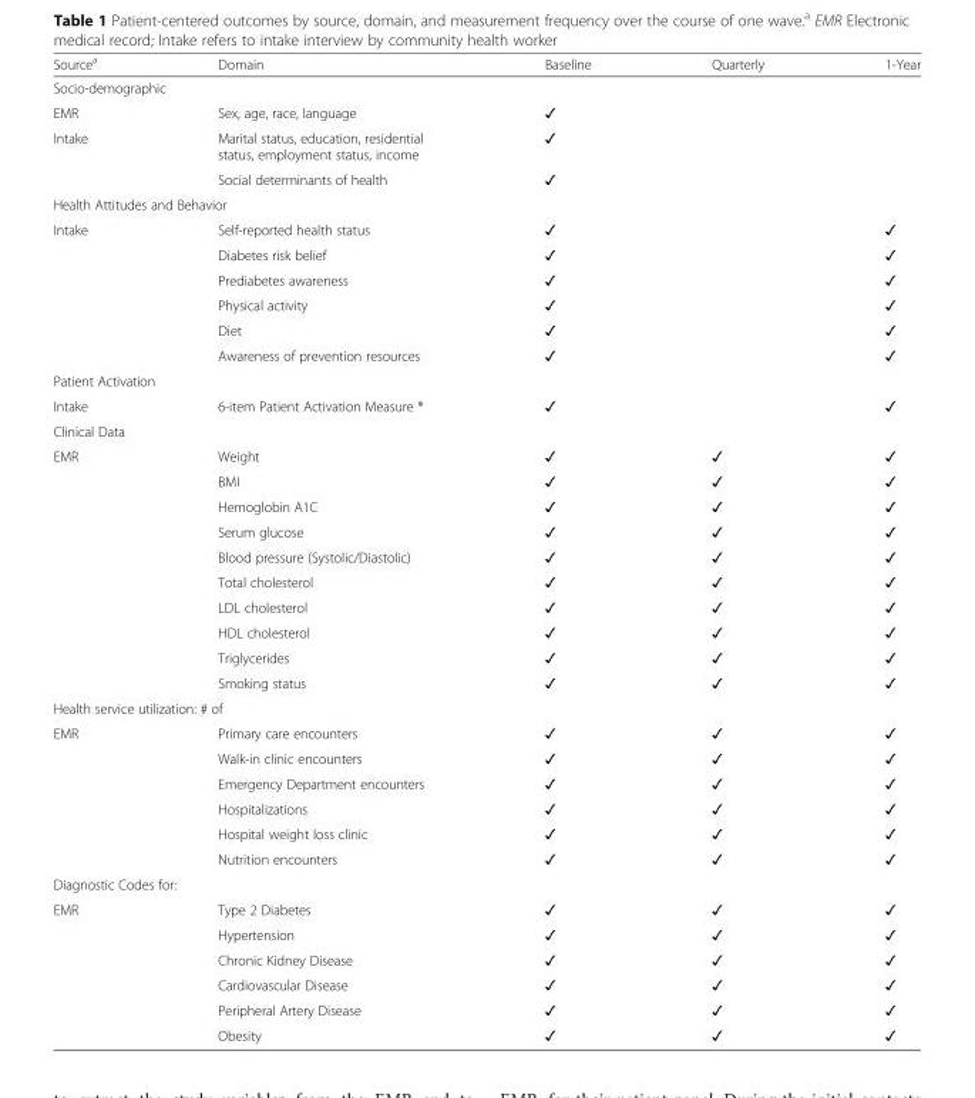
<table><thead><tr><td>Source<sup>a</sup></td><td>Domain</td><td>Baseline</td><td>Quarterly</td><td>1-Year</td></tr></thead><tbody><tr><td colspan="5">Socio-demographic</td></tr><tr><td>EMR</td><td>Sex, age, race, language</td><td>✓</td><td></td><td></td></tr><tr><td rowspan="2">Intake</td><td>Marital status, education, residential status, employment status, income</td><td>✓</td><td></td><td></td></tr><tr><td>Social determinants of health</td><td>✓</td><td></td><td></td></tr><tr><td colspan="5">Health Attitudes and Behavior</td></tr><tr><td rowspan="6">Intake</td><td>Self-reported health status</td><td>✓</td><td></td><td>✓</td></tr><tr><td>Diabetes risk belief</td><td>✓</td><td></td><td>✓</td></tr><tr><td>Prediabetes awareness</td><td>✓</td><td></td><td>✓</td></tr><tr><td>Physical activity</td><td>✓</td><td></td><td>✓</td></tr><tr><td>Diet</td><td>✓</td><td></td><td>✓</td></tr><tr><td>Awareness of prevention resources</td><td>✓</td><td></td><td>✓</td></tr><tr><td colspan="5">Patient Activation</td></tr><tr><td>Intake</td><td>6-item Patient Activation Measure ®</td><td>✓</td><td></td><td>✓</td></tr><tr><td colspan="5">Clinical Data</td></tr><tr><td rowspan="10">EMR</td><td>Weight</td><td>✓</td><td>✓</td><td>✓</td></tr><tr><td>BMI</td><td>✓</td><td>✓</td><td>✓</td></tr><tr><td>Hemoglobin A1C</td><td>✓</td><td>✓</td><td>✓</td></tr><tr><td>Serum glucose</td><td>✓</td><td>✓</td><td>✓</td></tr><tr><td>Blood pressure (Systolic/Diastolic)</td><td>✓</td><td>✓</td><td>✓</td></tr><tr><td>Total cholesterol</td><td>✓</td><td>✓</td><td>✓</td></tr><tr><td>LDL cholesterol</td><td>✓</td><td>✓</td><td>✓</td></tr><tr><td>HDL cholesterol</td><td>✓</td><td>✓</td><td>✓</td></tr><tr><td>Triglycerides</td><td>✓</td><td>✓</td><td>✓</td></tr><tr><td>Smoking status</td><td>✓</td><td>✓</td><td>✓</td></tr><tr><td colspan="5">Health service utilization: # of</td></tr><tr><td rowspan="6">EMR</td><td>Primary care encounters</td><td>✓</td><td>✓</td><td>✓</td></tr><tr><td>Walk-in clinic encounters</td><td>✓</td><td>✓</td><td>✓</td></tr><tr><td>Emergency Department encounters</td><td>✓</td><td>✓</td><td>✓</td></tr><tr><td>Hospitalizations</td><td>✓</td><td>✓</td><td>✓</td></tr><tr><td>Hospital weight loss clinic</td><td>✓</td><td>✓</td><td>✓</td></tr><tr><td>Nutrition encounters</td><td>✓</td><td>✓</td><td>✓</td></tr><tr><td colspan="5">Diagnostic Codes for:</td></tr><tr><td rowspan="6">EMR</td><td>Type 2 Diabetes</td><td>✓</td><td>✓</td><td>✓</td></tr><tr><td>Hypertension</td><td>✓</td><td>✓</td><td>✓</td></tr><tr><td>Chronic Kidney Disease</td><td>✓</td><td>✓</td><td>✓</td></tr><tr><td>Cardiovascular Disease</td><td>✓</td><td>✓</td><td>✓</td></tr><tr><td>Peripheral Artery Disease</td><td>✓</td><td>✓</td><td>✓</td></tr><tr><td>Obesity</td><td>✓</td><td>✓</td><td>✓</td></tr></tbody></table>